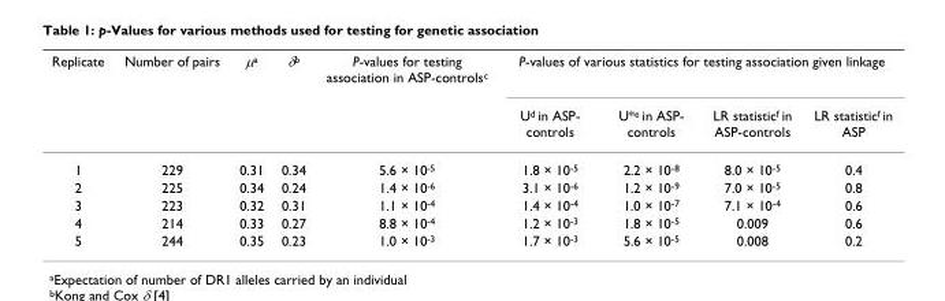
<table><thead><tr><td rowspan="2">Replicate</td><td rowspan="2">Number of pairs</td><td rowspan="2">μ<sup>a</sup></td><td rowspan="2">δ<sup>b</sup></td><td rowspan="2">P-values for testing association in ASP-controls<sup>c</sup></td><td colspan="4">P-values of various statistics for testing association given linkage</td></tr><tr><td>U<sup>d</sup> in ASP- controls</td><td>U*<sup>e</sup> in ASP- controls</td><td>LR statistic<sup>f</sup> in ASP-controls</td><td>LR statistic<sup>f</sup> in ASP</td></tr></thead><tbody><tr><td>1</td><td>229</td><td>0.31</td><td>0.34</td><td>5.6 × 10<sup>-5</sup></td><td>1.8 × 10<sup>-5</sup></td><td>2.2 × 10<sup>-8</sup></td><td>8.0 × 10<sup>-5</sup></td><td>0.4</td></tr><tr><td>2</td><td>225</td><td>0.34</td><td>0.24</td><td>1.4 × 10<sup>-6</sup></td><td>3.1 × 10<sup>-6</sup></td><td>1.2 × 10<sup>-9</sup></td><td>7.0 × 10<sup>-5</sup></td><td>0.8</td></tr><tr><td>3</td><td>223</td><td>0.32</td><td>0.31</td><td>1.1 × 10<sup>-4</sup></td><td>1.4 × 10<sup>-4</sup></td><td>1.0 × 10<sup>-7</sup></td><td>7.1 × 10<sup>-4</sup></td><td>0.6</td></tr><tr><td>4</td><td>214</td><td>0.33</td><td>0.27</td><td>8.8 × 10<sup>-4</sup></td><td>1.2 × 10<sup>-3</sup></td><td>1.8 × 10<sup>-5</sup></td><td>0.009</td><td>0.6</td></tr><tr><td>5</td><td>244</td><td>0.35</td><td>0.23</td><td>1.0 × 10<sup>-3</sup></td><td>1.7 × 10<sup>-3</sup></td><td>5.6 × 10<sup>-5</sup></td><td>0.008</td><td>0.2</td></tr></tbody></table>